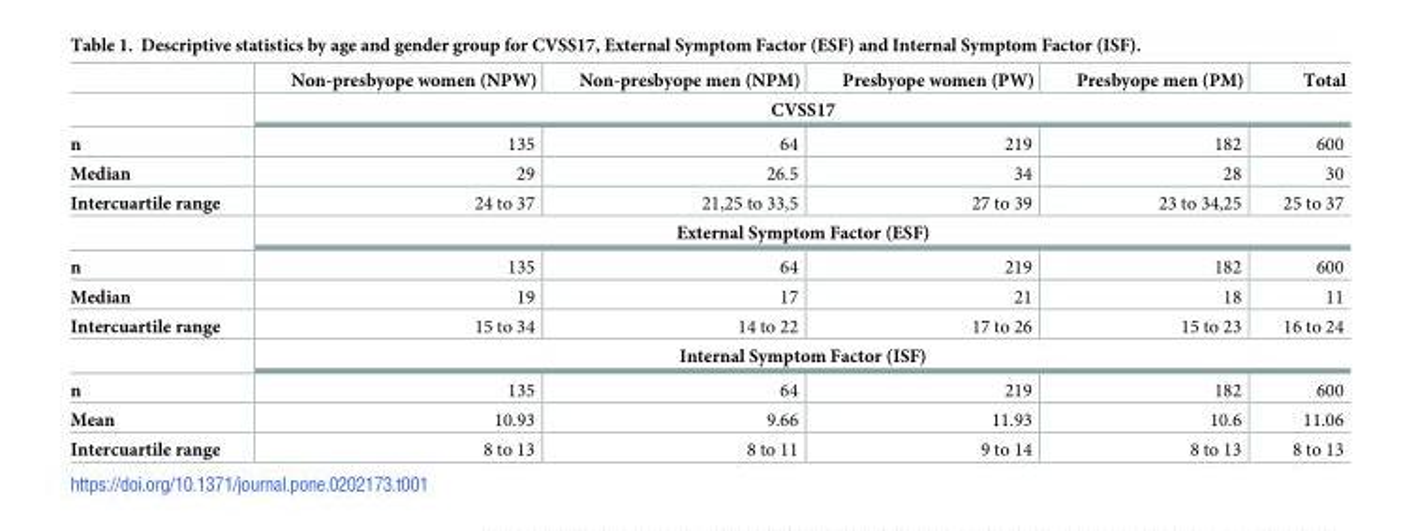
<table><thead><tr><td></td><td>Non-presbyope women (NPW)</td><td>Non-presbyope men (NPM)</td><td>Presbyope women (PW)</td><td>Presbyope men (PM)</td><td>Total</td></tr></thead><tbody><tr><td></td><td colspan="5">CVSS17</td></tr><tr><td>n</td><td>135</td><td>64</td><td>219</td><td>182</td><td>600</td></tr><tr><td>Median</td><td>29</td><td>26.5</td><td>34</td><td>28</td><td>30</td></tr><tr><td rowspan="2">Intercuartile range</td><td>24 to 37</td><td>21,25 to 33,5</td><td>27 to 39</td><td>23 to 34,25</td><td>25 to 37</td></tr><tr><td colspan="5">External Symptom Factor (ESF)</td></tr><tr><td>n</td><td>135</td><td>64</td><td>219</td><td>182</td><td>600</td></tr><tr><td>Median</td><td>19</td><td>17</td><td>21</td><td>18</td><td>11</td></tr><tr><td rowspan="2">Intercuartile range</td><td>15 to 34</td><td>14 to 22</td><td>17 to 26</td><td>15 to 23</td><td>16 to 24</td></tr><tr><td colspan="5">Internal Symptom Factor (ISF)</td></tr><tr><td>n</td><td>135</td><td>64</td><td>219</td><td>182</td><td>600</td></tr><tr><td>Mean</td><td>10.93</td><td>9.66</td><td>11.93</td><td>10.6</td><td>11.06</td></tr><tr><td>Intercuartile range</td><td>8 to 13</td><td>8 to 11</td><td>9 to 14</td><td>8 to 13</td><td>8 to 13</td></tr></tbody></table>